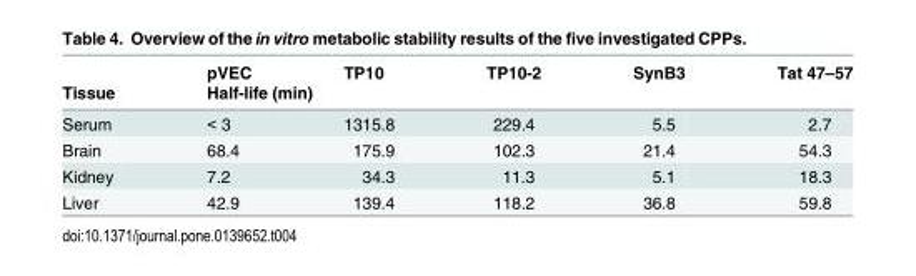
<table><thead><tr><td rowspan="2">Tissue</td><td>pVEC</td><td>TP10</td><td>TP10-2</td><td>SynB3</td><td>Tat 47–57</td></tr><tr><td colspan="5">Half-life (min)</td></tr></thead><tbody><tr><td>Serum</td><td>&lt; 3</td><td>1315.8</td><td>229.4</td><td>5.5</td><td>2.7</td></tr><tr><td>Brain</td><td>68.4</td><td>175.9</td><td>102.3</td><td>21.4</td><td>54.3</td></tr><tr><td>Kidney</td><td>7.2</td><td>34.3</td><td>11.3</td><td>5.1</td><td>18.3</td></tr><tr><td>Liver</td><td>42.9</td><td>139.4</td><td>118.2</td><td>36.8</td><td>59.8</td></tr></tbody></table>